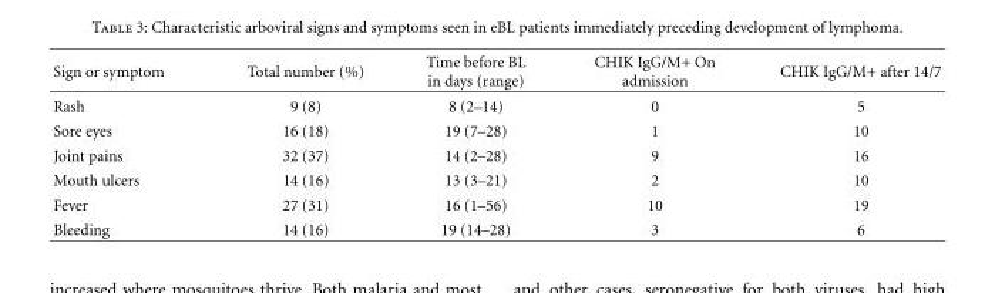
<table><thead><tr><td>Sign or symptom</td><td>Total number (%)</td><td>Time before BL in days (range)</td><td>CHIK IgG/M+ On admission</td><td>CHIK IgG/M+ after 14/7</td></tr></thead><tbody><tr><td>Rash</td><td>9 (8)</td><td>8 (2–14)</td><td>0</td><td>5</td></tr><tr><td>Sore eyes</td><td>16 (18)</td><td>19 (7–28)</td><td>1</td><td>10</td></tr><tr><td>Joint pains</td><td>32 (37)</td><td>14 (2–28)</td><td>9</td><td>16</td></tr><tr><td>Mouth ulcers</td><td>14 (16)</td><td>13 (3–21)</td><td>2</td><td>10</td></tr><tr><td>Fever</td><td>27 (31)</td><td>16 (1–56)</td><td>10</td><td>19</td></tr><tr><td>Bleeding</td><td>14 (16)</td><td>19 (14–28)</td><td>3</td><td>6</td></tr></tbody></table>